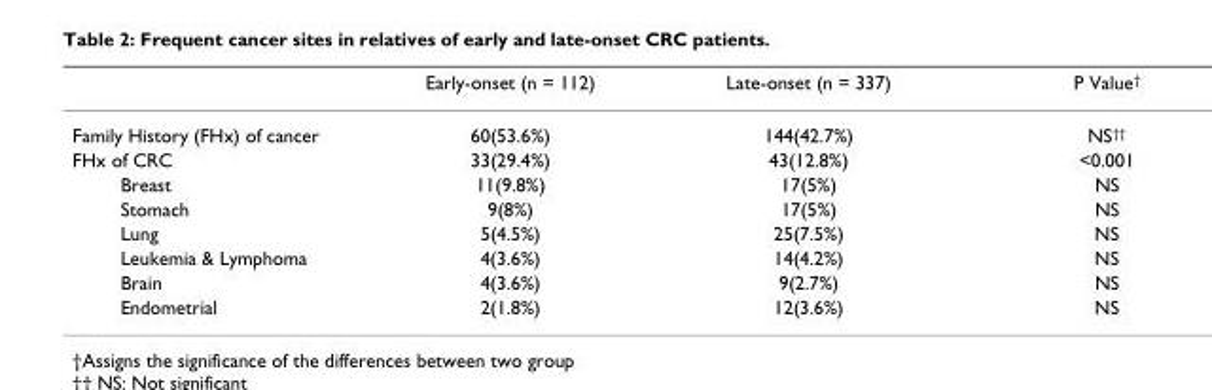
<table><thead><tr><td></td><td>Early-onset (n = 112)</td><td>Late-onset (n = 337)</td><td>P Value†</td></tr></thead><tbody><tr><td>Family History (FHx) of cancer</td><td>60(53.6%)</td><td>144(42.7%)</td><td>NS††</td></tr><tr><td>FHx of CRC</td><td>33(29.4%)</td><td>43(12.8%)</td><td>&lt;0.001</td></tr><tr><td>Breast</td><td>11(9.8%)</td><td>17(5%)</td><td>NS</td></tr><tr><td>Stomach</td><td>9(8%)</td><td>17(5%)</td><td>NS</td></tr><tr><td>Lung</td><td>5(4.5%)</td><td>25(7.5%)</td><td>NS</td></tr><tr><td>Leukemia &amp; Lymphoma</td><td>4(3.6%)</td><td>14(4.2%)</td><td>NS</td></tr><tr><td>Brain</td><td>4(3.6%)</td><td>9(2.7%)</td><td>NS</td></tr><tr><td>Endometrial</td><td>2(1.8%)</td><td>12(3.6%)</td><td>NS</td></tr></tbody></table>